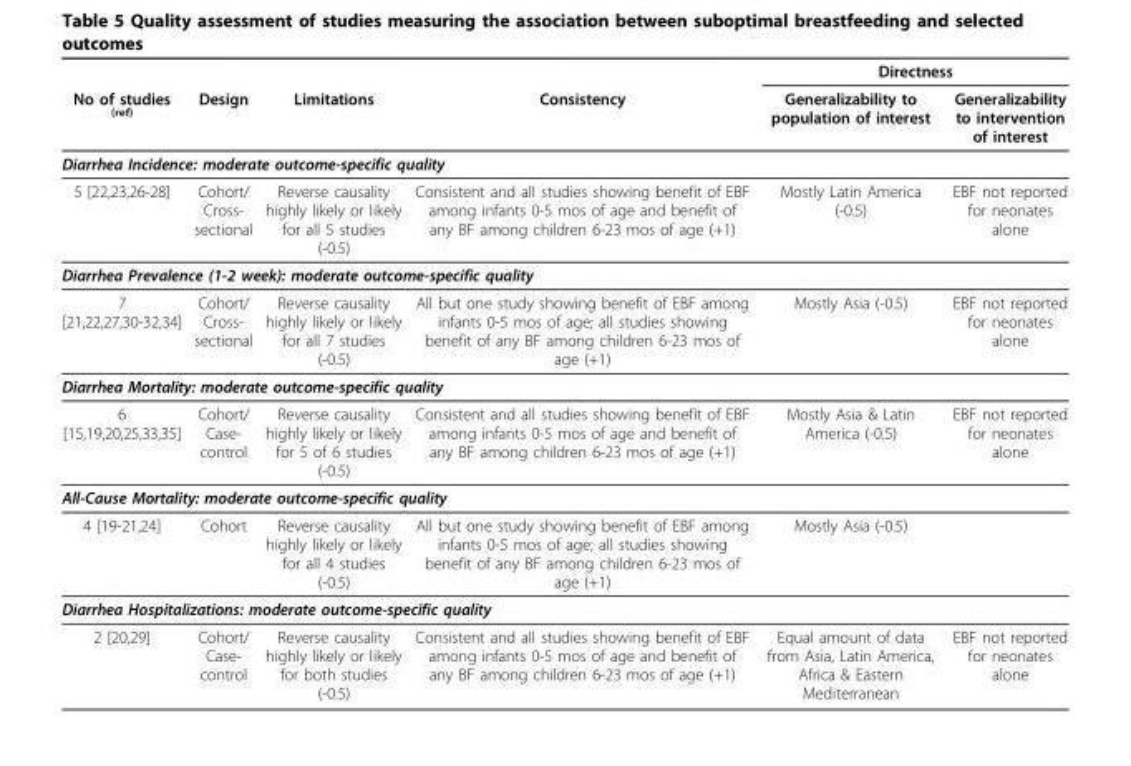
<table><thead><tr><td rowspan="2">No of studies <sup>(ref)</sup></td><td rowspan="2">Design</td><td rowspan="2">Limitations</td><td rowspan="2">Consistency</td><td colspan="2">Directness</td></tr><tr><td>Generalizability to population of interest</td><td>Generalizability to intervention of interest</td></tr></thead><tbody><tr><td colspan="6">Diarrhea Incidence: moderate outcome-specific quality</td></tr><tr><td>5 [22,23,26-28]</td><td>Cohort/ Cross- sectional</td><td>Reverse causality highly likely or likely for all 5 studies (-0.5)</td><td>Consistent and all studies showing benefit of EBF among infants 0-5 mos of age and benefit of any BF among children 6-23 mos of age (+1)</td><td>Mostly Latin America (-0.5)</td><td>EBF not reported for neonates alone</td></tr><tr><td colspan="6">Diarrhea Prevalence (1-2 week): moderate outcome-specific quality</td></tr><tr><td>7 [21,22,27,30-32,34]</td><td>Cohort/ Cross- sectional</td><td>Reverse causality highly likely or likely for all 7 studies (-0.5)</td><td>All but one study showing benefit of EBF among infants 0-5 mos of age; all studies showing benefit of any BF among children 6-23 mos of age (+1)</td><td>Mostly Asia (-0.5)</td><td>EBF not reported for neonates alone</td></tr><tr><td colspan="6">Diarrhea Mortality: moderate outcome-specific quality</td></tr><tr><td>6 [15,19,20,25,33,35]</td><td>Cohort/ Case- control</td><td>Reverse causality highly likely or likely for 5 of 6 studies (-0.5)</td><td>Consistent and all studies showing benefit of EBF among infants 0-5 mos of age and benefit of any BF among children 6-23 mos of age (+1)</td><td>Mostly Asia &amp; Latin America (-0.5)</td><td>EBF not reported for neonates alone</td></tr><tr><td colspan="6">All-Cause Mortality: moderate outcome-specific quality</td></tr><tr><td>4 [19-21,24]</td><td>Cohort</td><td>Reverse causality highly likely or likely for all 4 studies (-0.5)</td><td>All but one study showing benefit of EBF among infants 0-5 mos of age; all studies showing benefit of any BF among children 6-23 mos of age (+1)</td><td>Mostly Asia (-0.5)</td><td></td></tr><tr><td colspan="6">Diarrhea Hospitalizations: moderate outcome-specific quality</td></tr><tr><td>2 [20,29]</td><td>Cohort/ Case- control</td><td>Reverse causality highly likely or likely for both studies (-0.5)</td><td>Consistent and all studies showing benefit of EBF among infants 0-5 mos of age and benefit of any BF among children 6-23 mos of age (+1)</td><td>Equal amount of data from Asia, Latin America, Africa &amp; Eastern Mediterranean</td><td>EBF not reported for neonates alone</td></tr></tbody></table>